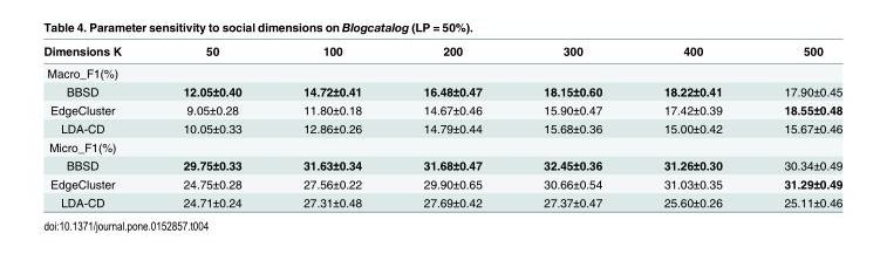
<table><thead><tr><td>Dimensions K</td><td>50</td><td>100</td><td>200</td><td>300</td><td>400</td><td>500</td></tr></thead><tbody><tr><td colspan="7">Macro_F1(%)</td></tr><tr><td>BBSD</td><td>12.05±0.40</td><td>14.72±0.41</td><td>16.48±0.47</td><td>18.15±0.60</td><td>18.22±0.41</td><td>17.90±0.45</td></tr><tr><td>EdgeCluster</td><td>9.05±0.28</td><td>11.80±0.18</td><td>14.67±0.46</td><td>15.90±0.47</td><td>17.42±0.39</td><td>18.55±0.48</td></tr><tr><td>LDA-CD</td><td>10.05±0.33</td><td>12.86±0.26</td><td>14.79±0.44</td><td>15.68±0.36</td><td>15.00±0.42</td><td>15.67±0.46</td></tr><tr><td colspan="7">Micro_F1(%)</td></tr><tr><td>BBSD</td><td>29.75±0.33</td><td>31.63±0.34</td><td>31.68±0.47</td><td>32.45±0.36</td><td>31.26±0.30</td><td>30.34±0.49</td></tr><tr><td>EdgeCluster</td><td>24.75±0.28</td><td>27.56±0.22</td><td>29.90±0.65</td><td>30.66±0.54</td><td>31.03±0.35</td><td>31.29±0.49</td></tr><tr><td>LDA-CD</td><td>24.71±0.24</td><td>27.31±0.48</td><td>27.69±0.42</td><td>27.37±0.47</td><td>25.60±0.26</td><td>25.11±0.46</td></tr></tbody></table>